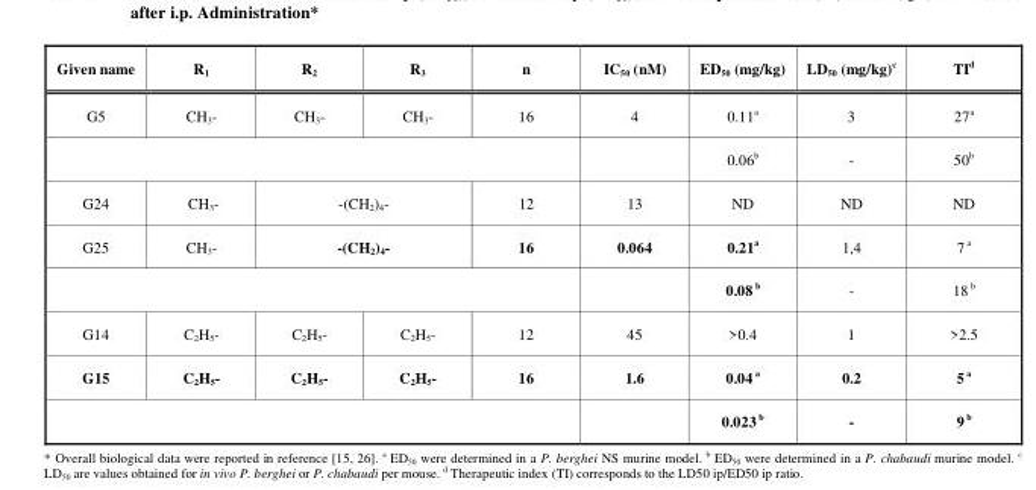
<table><thead><tr><td>Given name</td><td>R<sub>1</sub></td><td>R<sub>2</sub></td><td>R<sub>3</sub></td><td>n</td><td>IC<sub>50</sub> (nM)</td><td>ED<sub>50</sub> (mg/kg)</td><td>LD<sub>50</sub> (mg/kg)<sup>c</sup></td><td>TI<sup>d</sup></td></tr></thead><tbody><tr><td>G5</td><td>CH<sub>3</sub><sup><sub>-</sub></sup></td><td>CH<sub>3</sub><sup><sub>-</sub></sup></td><td>CH<sub>3</sub><sup><sub>-</sub></sup></td><td>16</td><td>4</td><td>0.11<sup>a</sup></td><td>3</td><td>27<sup>a</sup></td></tr><tr><td colspan="5"></td><td></td><td>0.06<sup>b</sup></td><td>-</td><td>50<sup>b</sup></td></tr><tr><td>G24</td><td>CH<sub>3</sub><sup><sub>-</sub></sup></td><td colspan="2">-(CH<sub>2</sub>)<sub>4</sub><sup><sub>-</sub></sup></td><td>12</td><td>13</td><td>ND</td><td>ND</td><td>ND</td></tr><tr><td>G25</td><td>CH<sub>3</sub><sup><sub>-</sub></sup></td><td colspan="2">-(CH<sub>2</sub>)<sub>4</sub><sup><sub>-</sub></sup></td><td>16</td><td>0.064</td><td>0.21<sup>a</sup></td><td>1,4</td><td>7 a</td></tr><tr><td colspan="5"></td><td></td><td>0.08 b</td><td>-</td><td>18 b</td></tr><tr><td>G14</td><td>C<sub>2</sub>H<sub>5</sub><sup><sub>-</sub></sup></td><td>C<sub>2</sub>H<sub>5</sub><sup><sub>-</sub></sup></td><td>C<sub>2</sub>H<sub>5</sub><sup><sub>-</sub></sup></td><td>12</td><td>45</td><td>&gt;0.4</td><td>1</td><td>&gt;2.5</td></tr><tr><td>G15</td><td>C<sub>2</sub>H<sub>5</sub><sup><sub>-</sub></sup></td><td>C<sub>2</sub>H<sub>5</sub><sup><sub>-</sub></sup></td><td>C<sub>2</sub>H<sub>5</sub><sup><sub>-</sub></sup></td><td>16</td><td>1.6</td><td>0.04 a</td><td>0.2</td><td>5 a</td></tr><tr><td colspan="5"></td><td></td><td>0.023 b</td><td>-</td><td>9 b</td></tr></tbody></table>